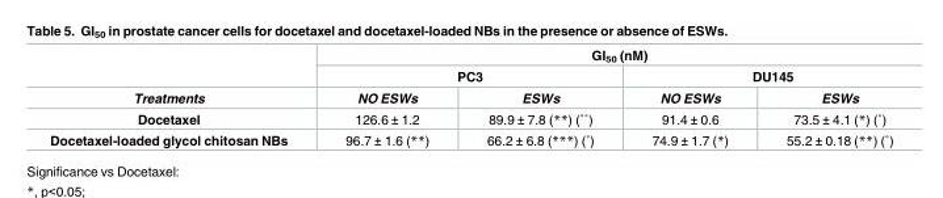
<table><thead><tr><td rowspan="3">Treatments</td><td colspan="4">GI<sub>50</sub> (nM)</td></tr><tr><td colspan="2">PC3</td><td colspan="2">DU145</td></tr><tr><td>NO ESWs</td><td>ESWs</td><td>NO ESWs</td><td>ESWs</td></tr></thead><tbody><tr><td>Docetaxel</td><td>126.6 ± 1.2</td><td>89.9 ± 7.8 (**) (˚˚)</td><td>91.4 ± 0.6</td><td>73.5 ± 4.1 (*) (˚)</td></tr><tr><td>Docetaxel-loaded glycol chitosan NBs</td><td>96.7 ± 1.6 (**)</td><td>66.2 ± 6.8 (***) (˚)</td><td>74.9 ± 1.7 (*)</td><td>55.2 ± 0.18 (**) (˚)</td></tr></tbody></table>